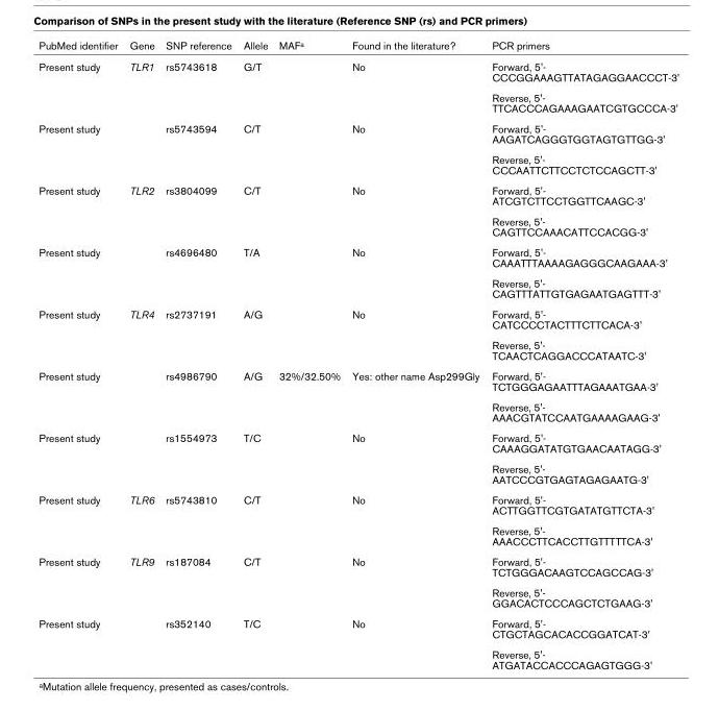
<table><thead><tr><td>PubMed identifier</td><td>Gene</td><td>SNP reference</td><td>Allele</td><td>MAF<sup>a</sup></td><td>Found in the literature?</td><td>PCR primers</td></tr></thead><tbody><tr><td rowspan="2">Present study</td><td>TLR1</td><td>rs5743618</td><td>G/T</td><td></td><td>No</td><td>Forward, 5&#x27;- CCCGGAAAGTTATAGAGGAACCCT-3&#x27;</td></tr><tr><td></td><td></td><td></td><td></td><td></td><td>Reverse, 5&#x27;- TTCACCCAGAAAGAATCGTGCCCA-3&#x27;</td></tr><tr><td rowspan="2">Present study</td><td></td><td>rs5743594</td><td>C/T</td><td></td><td>No</td><td>Forward, 5&#x27;- AAGATCAGGGTGGTAGTGTTGG-3&#x27;</td></tr><tr><td></td><td></td><td></td><td></td><td></td><td>Reverse, 5&#x27;- CCCAATTCTTCCTCTCCAGCTT-3&#x27;</td></tr><tr><td rowspan="2">Present study</td><td>TLR2</td><td>rs3804099</td><td>C/T</td><td></td><td>No</td><td>Forward, 5&#x27;- ATCGTCTTCCTGGTTCAAGC-3&#x27;</td></tr><tr><td></td><td></td><td></td><td></td><td></td><td>Reverse, 5&#x27;- CAGTTCCAAACATTCCACGG-3&#x27;</td></tr><tr><td rowspan="2">Present study</td><td></td><td>rs4696480</td><td>T/A</td><td></td><td>No</td><td>Forward, 5&#x27;- CAAATTTAAAAGAGGGCAAGAAA-3&#x27;</td></tr><tr><td></td><td></td><td></td><td></td><td></td><td>Reverse, 5&#x27;- CAGTTTATTGTGAGAATGAGTTT-3&#x27;</td></tr><tr><td rowspan="2">Present study</td><td>TLR4</td><td>rs2737191</td><td>A/G</td><td></td><td>No</td><td>Forward, 5&#x27;- CATCCCCTACTTTCTTCACA-3&#x27;</td></tr><tr><td></td><td></td><td></td><td></td><td></td><td>Reverse, 5&#x27;- TCAACTCAGGACCCATAATC-3&#x27;</td></tr><tr><td rowspan="2">Present study</td><td></td><td>rs4986790</td><td>A/G</td><td>32%/32.50%</td><td>Yes: other name Asp299Gly</td><td>Forward, 5&#x27;- TCTGGGAGAATTTAGAAATGAA-3&#x27;</td></tr><tr><td></td><td></td><td></td><td></td><td></td><td>Reverse, 5&#x27;- AAACGTATCCAATGAAAAGAAG-3&#x27;</td></tr><tr><td rowspan="2">Present study</td><td></td><td>rs1554973</td><td>T/C</td><td></td><td>No</td><td>Forward, 5&#x27;- CAAAGGATATGTGAACAATAGG-3&#x27;</td></tr><tr><td></td><td></td><td></td><td></td><td></td><td>Reverse, 5&#x27;- AATCCCGTGAGTAGAGAATG-3&#x27;</td></tr><tr><td rowspan="2">Present study</td><td>TLR6</td><td>rs5743810</td><td>C/T</td><td></td><td>No</td><td>Forward, 5&#x27;- ACTTGGTTCGTGATATGTTCTA-3&#x27;</td></tr><tr><td></td><td></td><td></td><td></td><td></td><td>Reverse, 5&#x27;- AAACCCTTCACCTTGTTTTTCA-3&#x27;</td></tr><tr><td rowspan="2">Present study</td><td>TLR9</td><td>rs187084</td><td>C/T</td><td></td><td>No</td><td>Forward, 5&#x27;- TCTGGGACAAGTCCAGCCAG-3&#x27;</td></tr><tr><td></td><td></td><td></td><td></td><td></td><td>Reverse, 5&#x27;- GGACACTCCCAGCTCTGAAG-3&#x27;</td></tr><tr><td rowspan="2">Present study</td><td></td><td>rs352140</td><td>T/C</td><td></td><td>No</td><td>Forward, 5&#x27;- CTGCTAGCACACCGGATCAT-3&#x27;</td></tr><tr><td></td><td></td><td></td><td></td><td></td><td>Reverse, 5&#x27;- ATGATACCACCCAGAGTGGG-3&#x27;</td></tr></tbody></table>